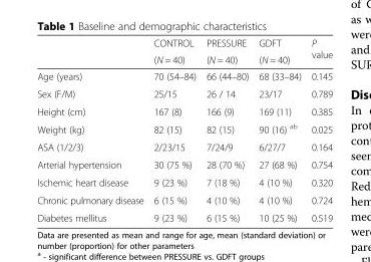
<table><thead><tr><td rowspan="2"></td><td rowspan="2">CONTROL (N = 40)</td><td rowspan="2">PRESSURE (N = 40)</td><td rowspan="2">GDFT (N = 40)</td><td rowspan="2">P value</td></tr><tr></tr></thead><tbody><tr><td>Age (years)</td><td>70 (54–84)</td><td>66 (44–80)</td><td>68 (33–84)</td><td>0.145</td></tr><tr><td>Sex (F/M)</td><td>25/15</td><td>26 / 14</td><td>23/17</td><td>0.789</td></tr><tr><td>Height (cm)</td><td>167 (8)</td><td>166 (9)</td><td>169 (11)</td><td>0.385</td></tr><tr><td>Weight (kg)</td><td>82 (15)</td><td>82 (15)</td><td>90 (16) <sup>ab</sup></td><td>0.025</td></tr><tr><td>ASA (1/2/3)</td><td>2/23/15</td><td>7/24/9</td><td>6/27/7</td><td>0.164</td></tr><tr><td>Arterial hypertension</td><td>30 (75 %)</td><td>28 (70 %)</td><td>27 (68 %)</td><td>0.754</td></tr><tr><td>Ischemic heart disease</td><td>9 (23 %)</td><td>7 (18 %)</td><td>4 (10 %)</td><td>0.320</td></tr><tr><td>Chronic pulmonary disease</td><td>6 (15 %)</td><td>4 (10 %)</td><td>4 (10 %)</td><td>0.724</td></tr><tr><td>Diabetes mellitus</td><td>9 (23 %)</td><td>6 (15 %)</td><td>10 (25 %)</td><td>0.519</td></tr></tbody></table>